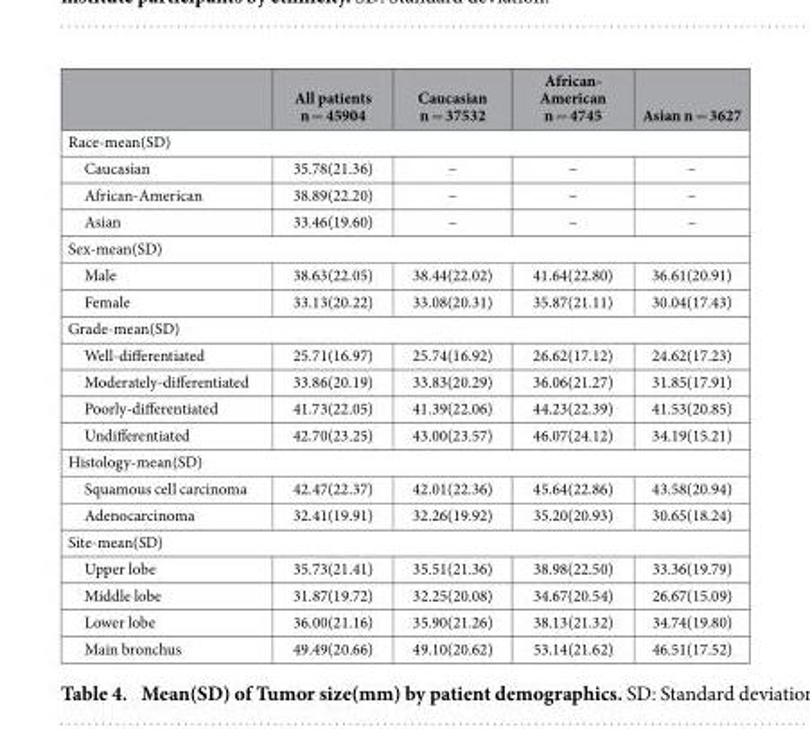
<table><thead><tr><td></td><td>All patients n = 45904</td><td>Caucasian n = 37532</td><td>African- American n = 4745</td><td>Asian n = 3627</td></tr></thead><tbody><tr><td colspan="5">Race-mean(SD)</td></tr><tr><td>Caucasian</td><td>35.78(21.36)</td><td>–</td><td>–</td><td>–</td></tr><tr><td>African-American</td><td>38.89(22.20)</td><td>–</td><td>–</td><td>–</td></tr><tr><td>Asian</td><td>33.46(19.60)</td><td>–</td><td>–</td><td>–</td></tr><tr><td colspan="5">Sex-mean(SD)</td></tr><tr><td>Male</td><td>38.63(22.05)</td><td>38.44(22.02)</td><td>41.64(22.80)</td><td>36.61(20.91)</td></tr><tr><td>Female</td><td>33.13(20.22)</td><td>33.08(20.31)</td><td>35.87(21.11)</td><td>30.04(17.43)</td></tr><tr><td colspan="5">Grade-mean(SD)</td></tr><tr><td>Well-differentiated</td><td>25.71(16.97)</td><td>25.74(16.92)</td><td>26.62(17.12)</td><td>24.62(17.23)</td></tr><tr><td>Moderately-differentiated</td><td>33.86(20.19)</td><td>33.83(20.29)</td><td>36.06(21.27)</td><td>31.85(17.91)</td></tr><tr><td>Poorly-differentiated</td><td>41.73(22.05)</td><td>41.39(22.06)</td><td>44.23(22.39)</td><td>41.53(20.85)</td></tr><tr><td>Undifferentiated</td><td>42.70(23.25)</td><td>43.00(23.57)</td><td>46.07(24.12)</td><td>34.19(15.21)</td></tr><tr><td colspan="5">Histology-mean(SD)</td></tr><tr><td>Squamous cell carcinoma</td><td>42.47(22.37)</td><td>42.01(22.36)</td><td>45.64(22.86)</td><td>43.58(20.94)</td></tr><tr><td>Adenocarcinoma</td><td>32.41(19.91)</td><td>32.26(19.92)</td><td>35.20(20.93)</td><td>30.65(18.24)</td></tr><tr><td colspan="5">Site-mean(SD)</td></tr><tr><td>Upper lobe</td><td>35.73(21.41)</td><td>35.51(21.36)</td><td>38.98(22.50)</td><td>33.36(19.79)</td></tr><tr><td>Middle lobe</td><td>31.87(19.72)</td><td>32.25(20.08)</td><td>34.67(20.54)</td><td>26.67(15.09)</td></tr><tr><td>Lower lobe</td><td>36.00(21.16)</td><td>35.90(21.26)</td><td>38.13(21.32)</td><td>34.74(19.80)</td></tr><tr><td>Main bronchus</td><td>49.49(20.66)</td><td>49.10(20.62)</td><td>53.14(21.62)</td><td>46.51(17.52)</td></tr></tbody></table>